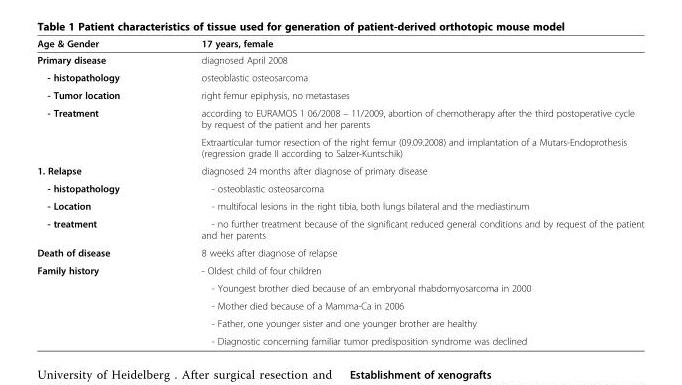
<table><thead><tr><td>Age &amp; Gender</td><td>17 years, female</td></tr></thead><tbody><tr><td>Primary disease</td><td>diagnosed April 2008</td></tr><tr><td>- histopathology</td><td>osteoblastic osteosarcoma</td></tr><tr><td>- Tumor location</td><td>right femur epiphysis, no metastases</td></tr><tr><td rowspan="2">- Treatment</td><td>according to EURAMOS 1 06/2008 – 11/2009, abortion of chemotherapy after the third postoperative cycle by request of the patient and her parents</td></tr><tr><td>Extraarticular tumor resection of the right femur (09.09.2008) and implantation of a Mutars-Endoprothesis (regression grade II according to Salzer-Kuntschik)</td></tr><tr><td>1. Relapse</td><td>diagnosed 24 months after diagnose of primary disease</td></tr><tr><td>- histopathology</td><td>- osteoblastic osteosarcoma</td></tr><tr><td>- Location</td><td>- multifocal lesions in the right tibia, both lungs bilateral and the mediastinum</td></tr><tr><td>- treatment</td><td>- no further treatment because of the significant reduced general conditions and by request of the patient and her parents</td></tr><tr><td>Death of disease</td><td>8 weeks after diagnose of relapse</td></tr><tr><td rowspan="5">Family history</td><td>- Oldest child of four children</td></tr><tr><td>- Youngest brother died because of an embryonal rhabdomyosarcoma in 2000</td></tr><tr><td>- Mother died because of a Mamma-Ca in 2006</td></tr><tr><td>- Father, one younger sister and one younger brother are healthy</td></tr><tr><td>- Diagnostic concerning familiar tumor predisposition syndrome was declined</td></tr></tbody></table>